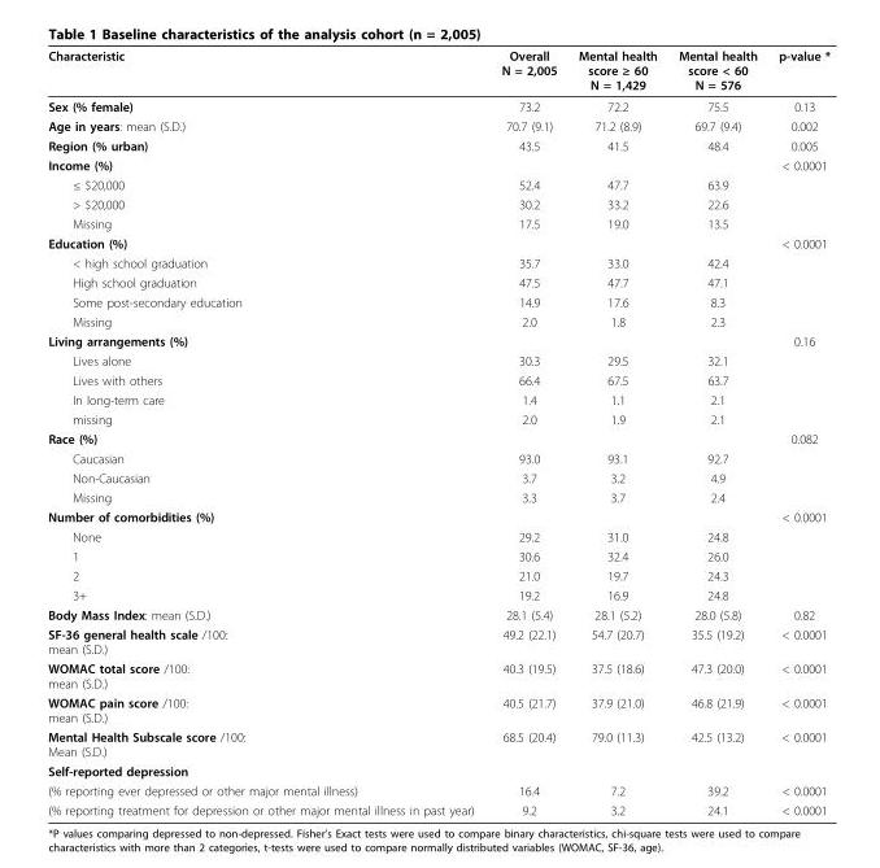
<table><thead><tr><td>Characteristic</td><td>Overall N = 2,005</td><td>Mental health score ≥ 60 N = 1,429</td><td>Mental health score &lt; 60 N = 576</td><td>p-value *</td></tr></thead><tbody><tr><td>Sex (% female)</td><td>73.2</td><td>72.2</td><td>75.5</td><td>0.13</td></tr><tr><td>Age in years: mean (S.D.)</td><td>70.7 (9.1)</td><td>71.2 (8.9)</td><td>69.7 (9.4)</td><td>0.002</td></tr><tr><td>Region (% urban)</td><td>43.5</td><td>41.5</td><td>48.4</td><td>0.005</td></tr><tr><td>Income (%)</td><td></td><td></td><td></td><td>&lt; 0.0001</td></tr><tr><td>≤ $20,000</td><td>52.4</td><td>47.7</td><td>63.9</td><td></td></tr><tr><td>&gt; $20,000</td><td>30.2</td><td>33.2</td><td>22.6</td><td></td></tr><tr><td>Missing</td><td>17.5</td><td>19.0</td><td>13.5</td><td></td></tr><tr><td>Education (%)</td><td></td><td></td><td></td><td>&lt; 0.0001</td></tr><tr><td>&lt; high school graduation</td><td>35.7</td><td>33.0</td><td>42.4</td><td></td></tr><tr><td>High school graduation</td><td>47.5</td><td>47.7</td><td>47.1</td><td></td></tr><tr><td>Some post-secondary education</td><td>14.9</td><td>17.6</td><td>8.3</td><td></td></tr><tr><td>Missing</td><td>2.0</td><td>1.8</td><td>2.3</td><td></td></tr><tr><td>Living arrangements (%)</td><td></td><td></td><td></td><td>0.16</td></tr><tr><td>Lives alone</td><td>30.3</td><td>29.5</td><td>32.1</td><td></td></tr><tr><td>Lives with others</td><td>66.4</td><td>67.5</td><td>63.7</td><td></td></tr><tr><td>In long-term care</td><td>1.4</td><td>1.1</td><td>2.1</td><td></td></tr><tr><td>missing</td><td>2.0</td><td>1.9</td><td>2.1</td><td></td></tr><tr><td>Race (%)</td><td></td><td></td><td></td><td>0.082</td></tr><tr><td>Caucasian</td><td>93.0</td><td>93.1</td><td>92.7</td><td></td></tr><tr><td>Non-Caucasian</td><td>3.7</td><td>3.2</td><td>4.9</td><td></td></tr><tr><td>Missing</td><td>3.3</td><td>3.7</td><td>2.4</td><td></td></tr><tr><td>Number of comorbidities (%)</td><td></td><td></td><td></td><td>&lt; 0.0001</td></tr><tr><td>None</td><td>29.2</td><td>31.0</td><td>24.8</td><td></td></tr><tr><td>1</td><td>30.6</td><td>32.4</td><td>26.0</td><td></td></tr><tr><td>2</td><td>21.0</td><td>19.7</td><td>24.3</td><td></td></tr><tr><td>3+</td><td>19.2</td><td>16.9</td><td>24.8</td><td></td></tr><tr><td>Body Mass Index: mean (S.D.)</td><td>28.1 (5.4)</td><td>28.1 (5.2)</td><td>28.0 (5.8)</td><td>0.82</td></tr><tr><td>SF-36 general health scale /100: mean (S.D.)</td><td>49.2 (22.1)</td><td>54.7 (20.7)</td><td>35.5 (19.2)</td><td>&lt; 0.0001</td></tr><tr><td>WOMAC total score /100: mean (S.D.)</td><td>40.3 (19.5)</td><td>37.5 (18.6)</td><td>47.3 (20.0)</td><td>&lt; 0.0001</td></tr><tr><td>WOMAC pain score /100: mean (S.D.)</td><td>40.5 (21.7)</td><td>37.9 (21.0)</td><td>46.8 (21.9)</td><td>&lt; 0.0001</td></tr><tr><td>Mental Health Subscale score /100: Mean (S.D.)</td><td>68.5 (20.4)</td><td>79.0 (11.3)</td><td>42.5 (13.2)</td><td>&lt; 0.0001</td></tr><tr><td colspan="5">Self-reported depression</td></tr><tr><td>(% reporting ever depressed or other major mental illness)</td><td>16.4</td><td>7.2</td><td>39.2</td><td>&lt; 0.0001</td></tr><tr><td>(% reporting treatment for depression or other major mental illness in past year)</td><td>9.2</td><td>3.2</td><td>24.1</td><td>&lt; 0.0001</td></tr></tbody></table>